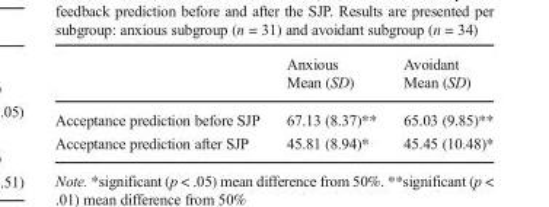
<table><thead><tr><td rowspan="2"></td><td rowspan="2">Anxious Mean (SD)</td><td rowspan="2">Avoidant Mean (SD)</td></tr><tr></tr></thead><tbody><tr><td>Acceptance prediction before SJP</td><td>67.13 (8.37)**</td><td>65.03 (9.85)**</td></tr><tr><td>Acceptance prediction after SJP</td><td>45.81 (8.94)*</td><td>45.45 (10.48)*</td></tr></tbody></table>